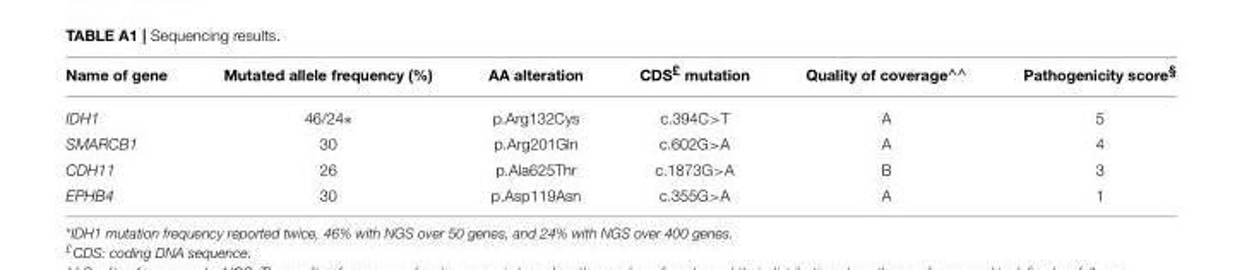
<table><thead><tr><td>Name of gene</td><td>Mutated allele frequency (%)</td><td>AA alteration</td><td>CDS<sup>£</sup> mutation</td><td>Quality of coverage<sup>∧∧</sup></td><td>Pathogenicity score<sup>§</sup></td></tr></thead><tbody><tr><td>IDH1</td><td>46/24∗</td><td>p.Arg132Cys</td><td>c.394C&gt;T</td><td>A</td><td>5</td></tr><tr><td>SMARCB1</td><td>30</td><td>p.Arg201Gln</td><td>c.602G&gt;A</td><td>A</td><td>4</td></tr><tr><td>CDH11</td><td>26</td><td>p.Ala625Thr</td><td>c.1873G&gt;A</td><td>B</td><td>3</td></tr><tr><td>EPHB4</td><td>30</td><td>p.Asp119Asn</td><td>c.355G&gt;A</td><td>A</td><td>1</td></tr></tbody></table>